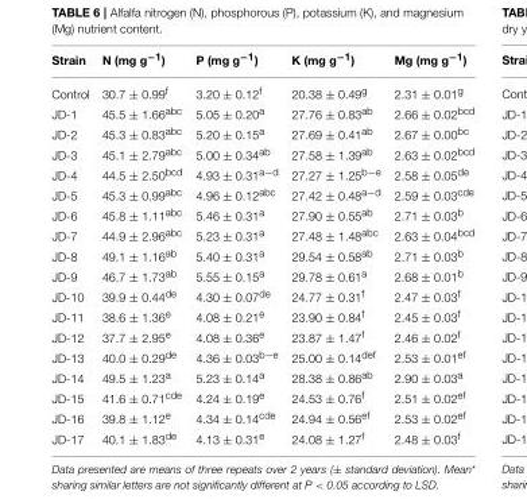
<table><thead><tr><td>Strain</td><td>N (mg g<sup>−1</sup>)</td><td>P (mg g<sup>−1</sup>)</td><td>K (mg g<sup>−1</sup>)</td><td>Mg (mg g<sup>−1</sup>)</td></tr></thead><tbody><tr><td>Control</td><td>30.7 ± 0.99<sup>f</sup></td><td>3.20 ± 0.12<sup>f</sup></td><td>20.38 ± 0.49<sup>g</sup></td><td>2.31 ± 0.01<sup>g</sup></td></tr><tr><td>JD-1</td><td>45.5 ± 1.66<sup>abc</sup></td><td>5.05 ± 0.20<sup>a</sup></td><td>27.76 ± 0.83<sup>ab</sup></td><td>2.66 ± 0.02<sup>bcd</sup></td></tr><tr><td>JD-2</td><td>45.3 ± 0.83<sup>abc</sup></td><td>5.20 ± 0.15<sup>a</sup></td><td>27.69 ± 0.41<sup>ab</sup></td><td>2.67 ± 0.00<sup>bc</sup></td></tr><tr><td>JD-3</td><td>45.1 ± 2.79<sup>abc</sup></td><td>5.00 ± 0.34<sup>ab</sup></td><td>27.58 ± 1.39<sup>ab</sup></td><td>2.63 ± 0.02<sup>bcd</sup></td></tr><tr><td>JD-4</td><td>44.5 ± 2.50<sup>bcd</sup></td><td>4.93 ± 0.31<sup>a−d</sup></td><td>27.27 ± 1.25<sup>b−e</sup></td><td>2.58 ± 0.05<sup>de</sup></td></tr><tr><td>JD-5</td><td>45.3 ± 0.99<sup>abc</sup></td><td>4.96 ± 0.12<sup>abc</sup></td><td>27.42 ± 0.48<sup>a−d</sup></td><td>2.59 ± 0.03<sup>cde</sup></td></tr><tr><td>JD-6</td><td>45.8 ± 1.11<sup>abc</sup></td><td>5.46 ± 0.31<sup>a</sup></td><td>27.90 ± 0.55<sup>ab</sup></td><td>2.71 ± 0.03<sup>b</sup></td></tr><tr><td>JD-7</td><td>44.9 ± 2.96<sup>abc</sup></td><td>5.23 ± 0.31<sup>a</sup></td><td>27.48 ± 1.48<sup>abc</sup></td><td>2.63 ± 0.04<sup>bcd</sup></td></tr><tr><td>JD-8</td><td>49.1 ± 1.16<sup>ab</sup></td><td>5.40 ± 0.31<sup>a</sup></td><td>29.54 ± 0.58<sup>ab</sup></td><td>2.71 ± 0.03<sup>b</sup></td></tr><tr><td>JD-9</td><td>46.7 ± 1.73<sup>ab</sup></td><td>5.55 ± 0.15<sup>a</sup></td><td>29.78 ± 0.61<sup>a</sup></td><td>2.68 ± 0.01<sup>b</sup></td></tr><tr><td>JD-10</td><td>39.9 ± 0.44<sup>de</sup></td><td>4.30 ± 0.07<sup>de</sup></td><td>24.77 ± 0.31<sup>f</sup></td><td>2.47 ± 0.03<sup>f</sup></td></tr><tr><td>JD-11</td><td>38.6 ± 1.36<sup>e</sup></td><td>4.08 ± 0.21<sup>e</sup></td><td>23.90 ± 0.84<sup>f</sup></td><td>2.45 ± 0.03<sup>f</sup></td></tr><tr><td>JD-12</td><td>37.7 ± 2.95<sup>e</sup></td><td>4.08 ± 0.36<sup>e</sup></td><td>23.87 ± 1.47<sup>f</sup></td><td>2.46 ± 0.02<sup>f</sup></td></tr><tr><td>JD-13</td><td>40.0 ± 0.29<sup>de</sup></td><td>4.36 ± 0.03<sup>b−e</sup></td><td>25.00 ± 0.14<sup>def</sup></td><td>2.53 ± 0.01<sup>ef</sup></td></tr><tr><td>JD-14</td><td>49.5 ± 1.23<sup>a</sup></td><td>5.23 ± 0.14<sup>a</sup></td><td>28.38 ± 0.86<sup>ab</sup></td><td>2.90 ± 0.03<sup>a</sup></td></tr><tr><td>JD-15</td><td>41.6 ± 0.71<sup>cde</sup></td><td>4.24 ± 0.19<sup>e</sup></td><td>24.53 ± 0.76<sup>f</sup></td><td>2.51 ± 0.02<sup>ef</sup></td></tr><tr><td>JD-16</td><td>39.8 ± 1.12<sup>e</sup></td><td>4.34 ± 0.14<sup>cde</sup></td><td>24.94 ± 0.56<sup>ef</sup></td><td>2.53 ± 0.02<sup>ef</sup></td></tr><tr><td>JD-17</td><td>40.1 ± 1.83<sup>de</sup></td><td>4.13 ± 0.31<sup>e</sup></td><td>24.08 ± 1.27<sup>f</sup></td><td>2.48 ± 0.03<sup>f</sup></td></tr></tbody></table>